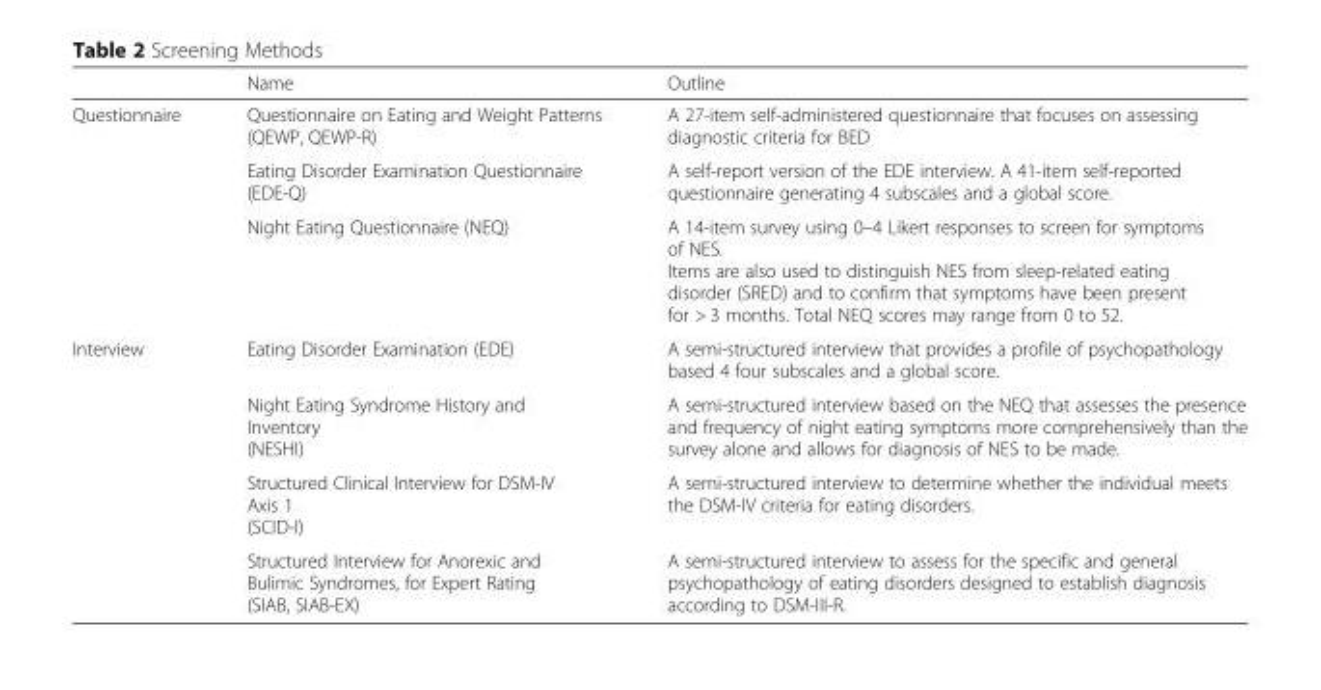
<table><thead><tr><td></td><td>Name</td><td>Outline</td></tr></thead><tbody><tr><td rowspan="3">Questionnaire</td><td>Questionnaire on Eating and Weight Patterns (QEWP, QEWP-R)</td><td>A 27-item self-administered questionnaire that focuses on assessing diagnostic criteria for BED</td></tr><tr><td>Eating Disorder Examination Questionnaire (EDE-Q)</td><td>A self-report version of the EDE interview. A 41-item self-reported questionnaire generating 4 subscales and a global score.</td></tr><tr><td>Night Eating Questionnaire (NEQ)</td><td>A 14-item survey using 0–4 Likert responses to screen for symptoms of NES. Items are also used to distinguish NES from sleep-related eating disorder (SRED) and to confirm that symptoms have been present for &gt; 3 months. Total NEQ scores may range from 0 to 52.</td></tr><tr><td rowspan="4">Interview</td><td>Eating Disorder Examination (EDE)</td><td>A semi-structured interview that provides a profile of psychopathology based 4 four subscales and a global score.</td></tr><tr><td>Night Eating Syndrome History and Inventory (NESHI)</td><td>A semi-structured interview based on the NEQ that assesses the presence and frequency of night eating symptoms more comprehensively than the survey alone and allows for diagnosis of NES to be made.</td></tr><tr><td>Structured Clinical Interview for DSM-IV Axis 1 (SCID-I)</td><td>A semi-structured interview to determine whether the individual meets the DSM-IV criteria for eating disorders.</td></tr><tr><td>Structured Interview for Anorexic and Bulimic Syndromes, for Expert Rating (SIAB, SIAB-EX)</td><td>A semi-structured interview to assess for the specific and general psychopathology of eating disorders designed to establish diagnosis according to DSM-III-R.</td></tr></tbody></table>